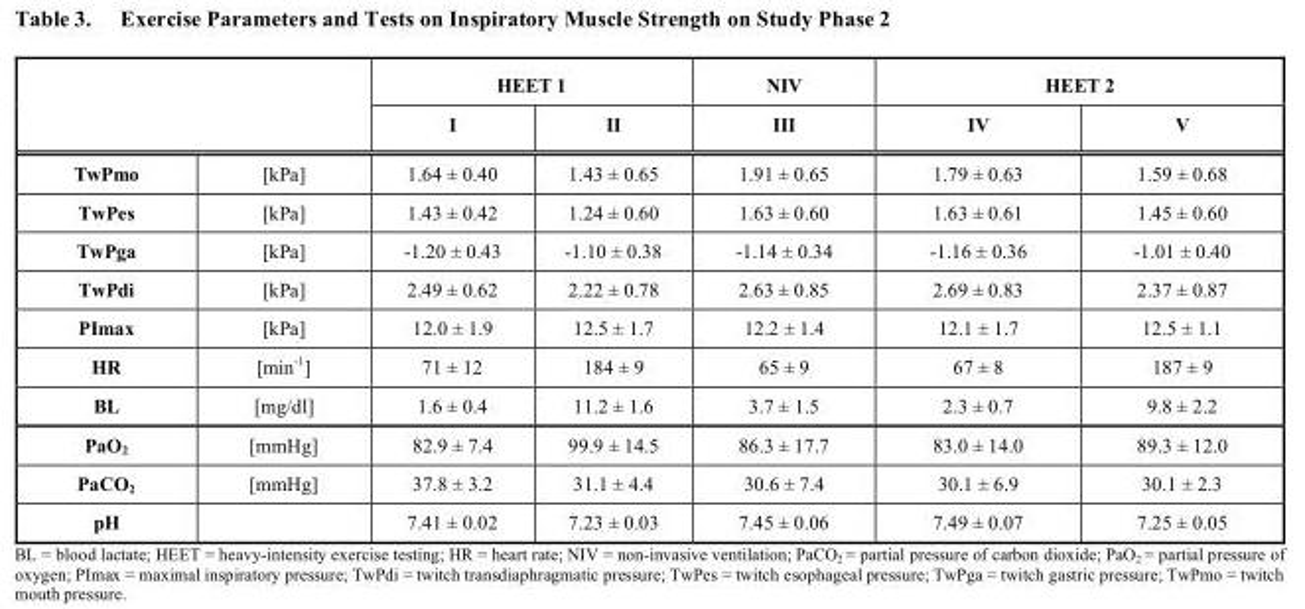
<table><thead><tr><td rowspan="2"></td><td rowspan="2"></td><td colspan="2">HEET 1</td><td rowspan="2">NIV III</td><td colspan="2">HEET 2</td></tr><tr><td>I</td><td>II</td><td>IV</td><td>V</td></tr></thead><tbody><tr><td>TwPmo</td><td>[kPa]</td><td>1.64 ± 0.40</td><td>1.43 ± 0.65</td><td>1.91 ± 0.65</td><td>1.79 ± 0.63</td><td>1.59 ± 0.68</td></tr><tr><td>TwPes</td><td>[kPa]</td><td>1.43 ± 0.42</td><td>1.24 ± 0.60</td><td>1.63 ± 0.60</td><td>1.63 ± 0.61</td><td>1.45 ± 0.60</td></tr><tr><td>TwPga</td><td>[kPa]</td><td>-1.20 ± 0.43</td><td>-1.10 ± 0.38</td><td>-1.14 ± 0.34</td><td>-1.16 ± 0.36</td><td>-1.01 ± 0.40</td></tr><tr><td>TwPdi</td><td>[kPa]</td><td>2.49 ± 0.62</td><td>2.22 ± 0.78</td><td>2.63 ± 0.85</td><td>2.69 ± 0.83</td><td>2.37 ± 0.87</td></tr><tr><td>PImax</td><td>[kPa]</td><td>12.0 ± 1.9</td><td>12.5 ± 1.7</td><td>12.2 ± 1.4</td><td>12.1 ± 1.7</td><td>12.5 ± 1.1</td></tr><tr><td>HR</td><td>[min<sup>-1</sup>]</td><td>71 ± 12</td><td>184 ± 9</td><td>65 ± 9</td><td>67 ± 8</td><td>187 ± 9</td></tr><tr><td>BL</td><td>[mg/dl]</td><td>1.6 ± 0.4</td><td>11.2 ± 1.6</td><td>3.7 ± 1.5</td><td>2.3 ± 0.7</td><td>9.8 ± 2.2</td></tr><tr><td>PaO<sub>2</sub></td><td>[mmHg]</td><td>82.9 ± 7.4</td><td>99.9 ± 14.5</td><td>86.3 ± 17.7</td><td>83.0 ± 14.0</td><td>89.3 ± 12.0</td></tr><tr><td>PaCO<sub>2</sub></td><td>[mmHg]</td><td>37.8 ± 3.2</td><td>31.1 ± 4.4</td><td>30.6 ± 7.4</td><td>30.1 ± 6.9</td><td>30.1 ± 2.3</td></tr><tr><td>pH</td><td></td><td>7.41 ± 0.02</td><td>7.23 ± 0.03</td><td>7.45 ± 0.06</td><td>7.49 ± 0.07</td><td>7.25 ± 0.05</td></tr></tbody></table>